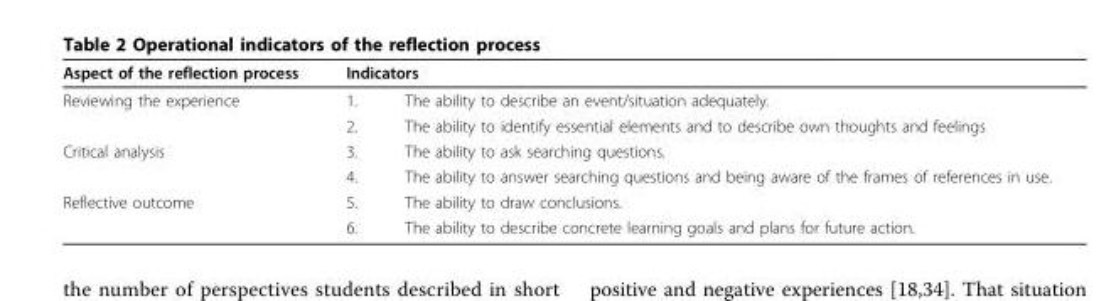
<table><thead><tr><td rowspan="2">Aspect of the reflection process Reviewing the experience</td><td colspan="2">Indicators</td></tr><tr><td>1.</td><td>The ability to describe an event/situation adequately.</td></tr></thead><tbody><tr><td></td><td>2.</td><td>The ability to identify essential elements and to describe own thoughts and feelings</td></tr><tr><td rowspan="2">Critical analysis</td><td>3.</td><td>The ability to ask searching questions.</td></tr><tr><td>4.</td><td>The ability to answer searching questions and being aware of the frames of references in use.</td></tr><tr><td rowspan="2">Reflective outcome</td><td>5.</td><td>The ability to draw conclusions.</td></tr><tr><td>6.</td><td>The ability to describe concrete learning goals and plans for future action.</td></tr></tbody></table>